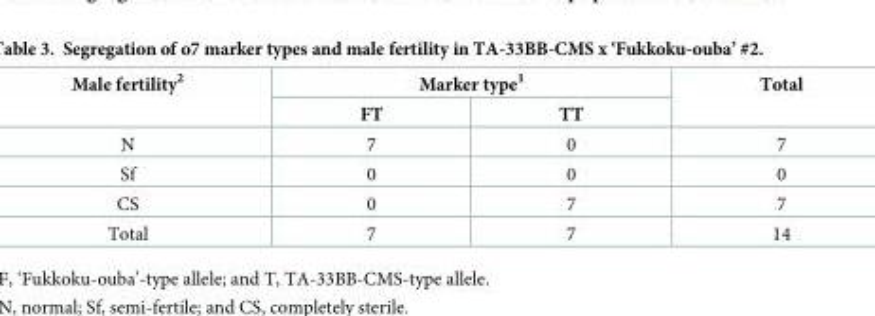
<table><thead><tr><td rowspan="2">Male fertility<sup>2</sup></td><td colspan="2">Marker type<sup>1</sup></td><td rowspan="2">Total</td></tr><tr><td>FT</td><td>TT</td></tr></thead><tbody><tr><td>N</td><td>7</td><td>0</td><td>7</td></tr><tr><td>Sf</td><td>0</td><td>0</td><td>0</td></tr><tr><td>CS</td><td>0</td><td>7</td><td>7</td></tr><tr><td>Total</td><td>7</td><td>7</td><td>14</td></tr></tbody></table>